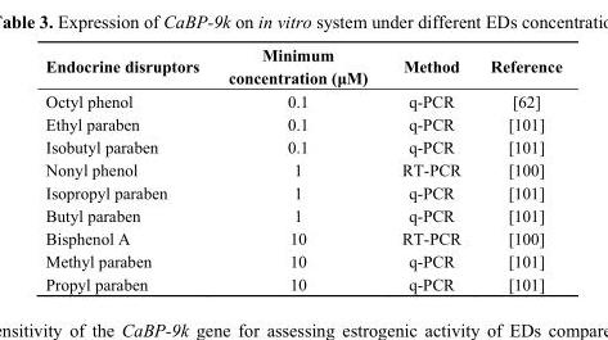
<table><thead><tr><td>Endocrine disruptors</td><td>Minimum concentration (μM)</td><td>Method</td><td>Reference</td></tr></thead><tbody><tr><td>Octyl phenol</td><td>0.1</td><td>q-PCR</td><td>[62]</td></tr><tr><td>Ethyl paraben</td><td>0.1</td><td>q-PCR</td><td>[101]</td></tr><tr><td>Isobutyl paraben</td><td>0.1</td><td>q-PCR</td><td>[101]</td></tr><tr><td>Nonyl phenol</td><td>1</td><td>RT-PCR</td><td>[100]</td></tr><tr><td>Isopropyl paraben</td><td>1</td><td>q-PCR</td><td>[101]</td></tr><tr><td>Butyl paraben</td><td>1</td><td>q-PCR</td><td>[101]</td></tr><tr><td>Bisphenol A</td><td>10</td><td>RT-PCR</td><td>[100]</td></tr><tr><td>Methyl paraben</td><td>10</td><td>q-PCR</td><td>[101]</td></tr><tr><td>Propyl paraben</td><td>10</td><td>q-PCR</td><td>[101]</td></tr></tbody></table>